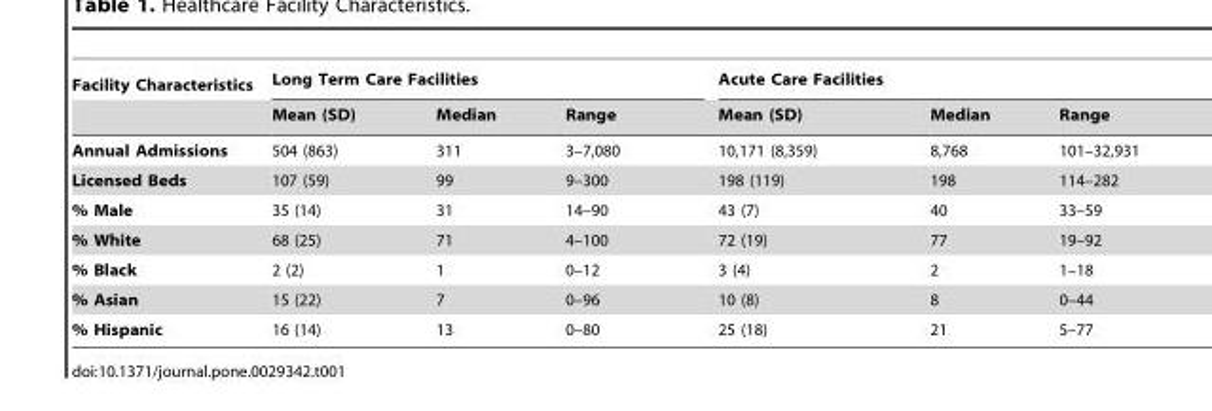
<table><thead><tr><td rowspan="2">Facility Characteristics</td><td colspan="3">Long Term Care Facilities</td><td colspan="3">Acute Care Facilities</td></tr><tr><td>Mean (SD)</td><td>Median</td><td>Range</td><td>Mean (SD)</td><td>Median</td><td>Range</td></tr></thead><tbody><tr><td>Annual Admissions</td><td>504 (863)</td><td>311</td><td>3–7,080</td><td>10,171 (8,359)</td><td>8,768</td><td>101–32,931</td></tr><tr><td>Licensed Beds</td><td>107 (59)</td><td>99</td><td>9–300</td><td>198 (119)</td><td>198</td><td>114–282</td></tr><tr><td>% Male</td><td>35 (14)</td><td>31</td><td>14–90</td><td>43 (7)</td><td>40</td><td>33–59</td></tr><tr><td>% White</td><td>68 (25)</td><td>71</td><td>4–100</td><td>72 (19)</td><td>77</td><td>19–92</td></tr><tr><td>% Black</td><td>2 (2)</td><td>1</td><td>0–12</td><td>3 (4)</td><td>2</td><td>1–18</td></tr><tr><td>% Asian</td><td>15 (22)</td><td>7</td><td>0–96</td><td>10 (8)</td><td>8</td><td>0–44</td></tr><tr><td>% Hispanic</td><td>16 (14)</td><td>13</td><td>0–80</td><td>25 (18)</td><td>21</td><td>5–77</td></tr></tbody></table>